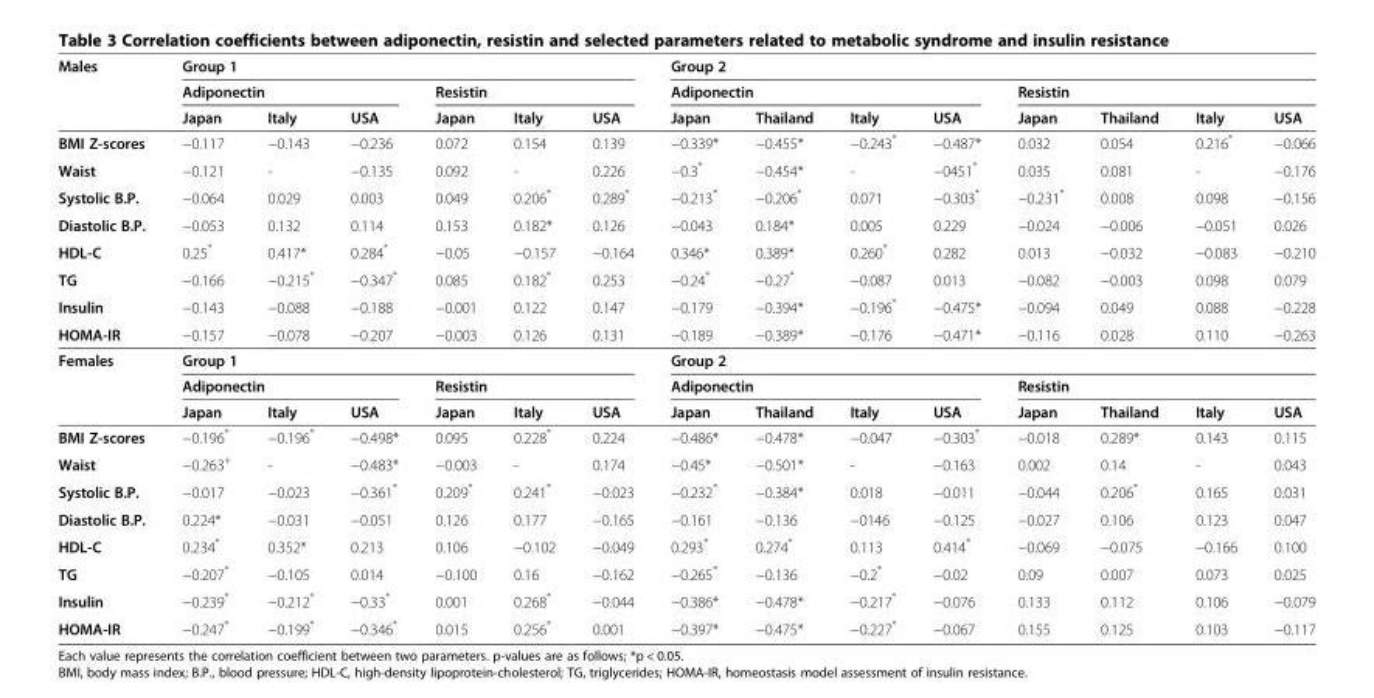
<table><thead><tr><td rowspan="3">Males</td><td colspan="6">Group 1</td><td colspan="8">Group 2</td></tr><tr><td colspan="3">Adiponectin</td><td colspan="3">Resistin</td><td colspan="4">Adiponectin</td><td colspan="4">Resistin</td></tr><tr><td>Japan</td><td>Italy</td><td>USA</td><td>Japan</td><td>Italy</td><td>USA</td><td>Japan</td><td>Thailand</td><td>Italy</td><td>USA</td><td>Japan</td><td>Thailand</td><td>Italy</td><td>USA</td></tr></thead><tbody><tr><td>BMI Z-scores</td><td>−0.117</td><td>−0.143</td><td>−0.236</td><td>0.072</td><td>0.154</td><td>0.139</td><td>−0.339*</td><td>−0.455*</td><td>−0.243*</td><td>−0.487*</td><td>0.032</td><td>0.054</td><td>0.216*</td><td>−0.066</td></tr><tr><td>Waist</td><td>−0.121</td><td>-</td><td>−0.135</td><td>0.092</td><td>-</td><td>0.226</td><td>−0.3*</td><td>−0.454*</td><td>-</td><td>−0451*</td><td>0.035</td><td>0.081</td><td>-</td><td>−0.176</td></tr><tr><td>Systolic B.P.</td><td>−0.064</td><td>0.029</td><td>0.003</td><td>0.049</td><td>0.206*</td><td>0.289*</td><td>−0.213*</td><td>−0.206*</td><td>0.071</td><td>−0.303*</td><td>−0.231*</td><td>0.008</td><td>0.098</td><td>−0.156</td></tr><tr><td>Diastolic B.P.</td><td>−0.053</td><td>0.132</td><td>0.114</td><td>0.153</td><td>0.182*</td><td>0.126</td><td>−0.043</td><td>0.184*</td><td>0.005</td><td>0.229</td><td>−0.024</td><td>−0.006</td><td>−0.051</td><td>0.026</td></tr><tr><td>HDL-C</td><td>0.25*</td><td>0.417*</td><td>0.284*</td><td>−0.05</td><td>−0.157</td><td>−0.164</td><td>0.346*</td><td>0.389*</td><td>0.260*</td><td>0.282</td><td>0.013</td><td>−0.032</td><td>−0.083</td><td>−0.210</td></tr><tr><td>TG</td><td>−0.166</td><td>−0.215*</td><td>−0.347*</td><td>0.085</td><td>0.182*</td><td>0.253</td><td>−0.24*</td><td>−0.27*</td><td>−0.087</td><td>0.013</td><td>−0.082</td><td>−0.003</td><td>0.098</td><td>0.079</td></tr><tr><td>Insulin</td><td>−0.143</td><td>−0.088</td><td>−0.188</td><td>−0.001</td><td>0.122</td><td>0.147</td><td>−0.179</td><td>−0.394*</td><td>−0.196*</td><td>−0.475*</td><td>−0.094</td><td>0.049</td><td>0.088</td><td>−0.228</td></tr><tr><td>HOMA-IR</td><td>−0.157</td><td>−0.078</td><td>−0.207</td><td>−0.003</td><td>0.126</td><td>0.131</td><td>−0.189</td><td>−0.389*</td><td>−0.176</td><td>−0.471*</td><td>−0.116</td><td>0.028</td><td>0.110</td><td>−0.263</td></tr><tr><td rowspan="3">Females</td><td colspan="6">Group 1</td><td colspan="8">Group 2</td></tr><tr><td colspan="3">Adiponectin</td><td colspan="3">Resistin</td><td colspan="4">Adiponectin</td><td colspan="4">Resistin</td></tr><tr><td>Japan</td><td>Italy</td><td>USA</td><td>Japan</td><td>Italy</td><td>USA</td><td>Japan</td><td>Thailand</td><td>Italy</td><td>USA</td><td>Japan</td><td>Thailand</td><td>Italy</td><td>USA</td></tr><tr><td>BMI Z-scores</td><td>−0.196*</td><td>−0.196*</td><td>−0.498*</td><td>0.095</td><td>0.228*</td><td>0.224</td><td>−0.486*</td><td>−0.478*</td><td>−0.047</td><td>−0.303*</td><td>−0.018</td><td>0.289*</td><td>0.143</td><td>0.115</td></tr><tr><td>Waist</td><td>−0.263<sup>+</sup></td><td>-</td><td>−0.483*</td><td>−0.003</td><td>-</td><td>0.174</td><td>−0.45*</td><td>−0.501*</td><td>-</td><td>−0.163</td><td>0.002</td><td>0.14</td><td>-</td><td>0.043</td></tr><tr><td>Systolic B.P.</td><td>−0.017</td><td>−0.023</td><td>−0.361*</td><td>0.209*</td><td>0.241*</td><td>−0.023</td><td>−0.232*</td><td>−0.384*</td><td>0.018</td><td>−0.011</td><td>−0.044</td><td>0.206*</td><td>0.165</td><td>0.031</td></tr><tr><td>Diastolic B.P.</td><td>0.224*</td><td>−0.031</td><td>−0.051</td><td>0.126</td><td>0.177</td><td>−0.165</td><td>−0.161</td><td>−0.136</td><td>−0146</td><td>−0.125</td><td>−0.027</td><td>0.106</td><td>0.123</td><td>0.047</td></tr><tr><td>HDL-C</td><td>0.234*</td><td>0.352*</td><td>0.213</td><td>0.106</td><td>−0.102</td><td>−0.049</td><td>0.293*</td><td>0.274*</td><td>0.113</td><td>0.414*</td><td>−0.069</td><td>−0.075</td><td>−0.166</td><td>0.100</td></tr><tr><td>TG</td><td>−0.207*</td><td>−0.105</td><td>0.014</td><td>−0.100</td><td>0.16</td><td>−0.162</td><td>−0.265*</td><td>−0.136</td><td>−0.2*</td><td>−0.02</td><td>0.09</td><td>0.007</td><td>0.073</td><td>0.025</td></tr><tr><td>Insulin</td><td>−0.239*</td><td>−0.212*</td><td>−0.33*</td><td>0.001</td><td>0.268*</td><td>−0.044</td><td>−0.386*</td><td>−0.478*</td><td>−0.217*</td><td>−0.076</td><td>0.133</td><td>0.112</td><td>0.106</td><td>−0.079</td></tr><tr><td>HOMA-IR</td><td>−0.247*</td><td>−0.199*</td><td>−0.346*</td><td>0.015</td><td>0.256*</td><td>0.001</td><td>−0.397*</td><td>−0.475*</td><td>−0.227*</td><td>−0.067</td><td>0.155</td><td>0.125</td><td>0.103</td><td>−0.117</td></tr></tbody></table>